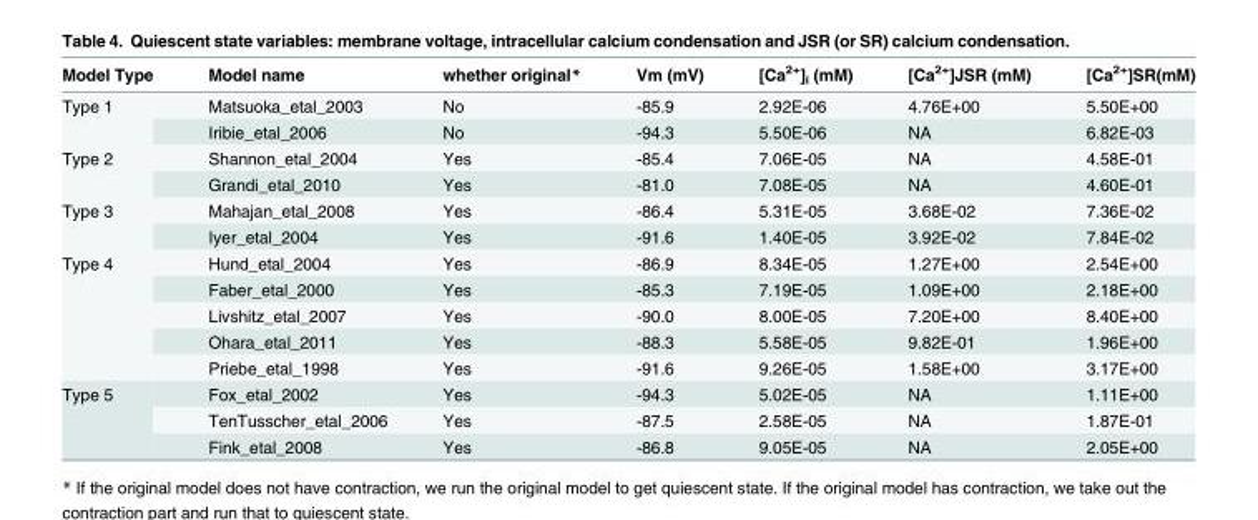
<table><thead><tr><td>Model Type</td><td>Model name</td><td>whether original*</td><td>Vm (mV)</td><td>[Ca<sup>2+</sup>]<sub>i</sub> (mM)</td><td>[Ca<sup>2+</sup>]JSR (mM)</td><td>[Ca<sup>2+</sup>]SR(mM)</td></tr></thead><tbody><tr><td rowspan="2">Type 1</td><td>Matsuoka_etal_2003</td><td>No</td><td>-85.9</td><td>2.92E-06</td><td>4.76E+00</td><td>5.50E+00</td></tr><tr><td>Iribie_etal_2006</td><td>No</td><td>-94.3</td><td>5.50E-06</td><td>NA</td><td>6.82E-03</td></tr><tr><td rowspan="2">Type 2</td><td>Shannon_etal_2004</td><td>Yes</td><td>-85.4</td><td>7.06E-05</td><td>NA</td><td>4.58E-01</td></tr><tr><td>Grandi_etal_2010</td><td>Yes</td><td>-81.0</td><td>7.08E-05</td><td>NA</td><td>4.60E-01</td></tr><tr><td rowspan="2">Type 3</td><td>Mahajan_etal_2008</td><td>Yes</td><td>-86.4</td><td>5.31E-05</td><td>3.68E-02</td><td>7.36E-02</td></tr><tr><td>Iyer_etal_2004</td><td>Yes</td><td>-91.6</td><td>1.40E-05</td><td>3.92E-02</td><td>7.84E-02</td></tr><tr><td rowspan="5">Type 4</td><td>Hund_etal_2004</td><td>Yes</td><td>-86.9</td><td>8.34E-05</td><td>1.27E+00</td><td>2.54E+00</td></tr><tr><td>Faber_etal_2000</td><td>Yes</td><td>-85.3</td><td>7.19E-05</td><td>1.09E+00</td><td>2.18E+00</td></tr><tr><td>Livshitz_etal_2007</td><td>Yes</td><td>-90.0</td><td>8.00E-05</td><td>7.20E+00</td><td>8.40E+00</td></tr><tr><td>Ohara_etal_2011</td><td>Yes</td><td>-88.3</td><td>5.58E-05</td><td>9.82E-01</td><td>1.96E+00</td></tr><tr><td>Priebe_etal_1998</td><td>Yes</td><td>-91.6</td><td>9.26E-05</td><td>1.58E+00</td><td>3.17E+00</td></tr><tr><td rowspan="3">Type 5</td><td>Fox_etal_2002</td><td>Yes</td><td>-94.3</td><td>5.02E-05</td><td>NA</td><td>1.11E+00</td></tr><tr><td>TenTusscher_etal_2006</td><td>Yes</td><td>-87.5</td><td>2.58E-05</td><td>NA</td><td>1.87E-01</td></tr><tr><td>Fink_etal_2008</td><td>Yes</td><td>-86.8</td><td>9.05E-05</td><td>NA</td><td>2.05E+00</td></tr></tbody></table>